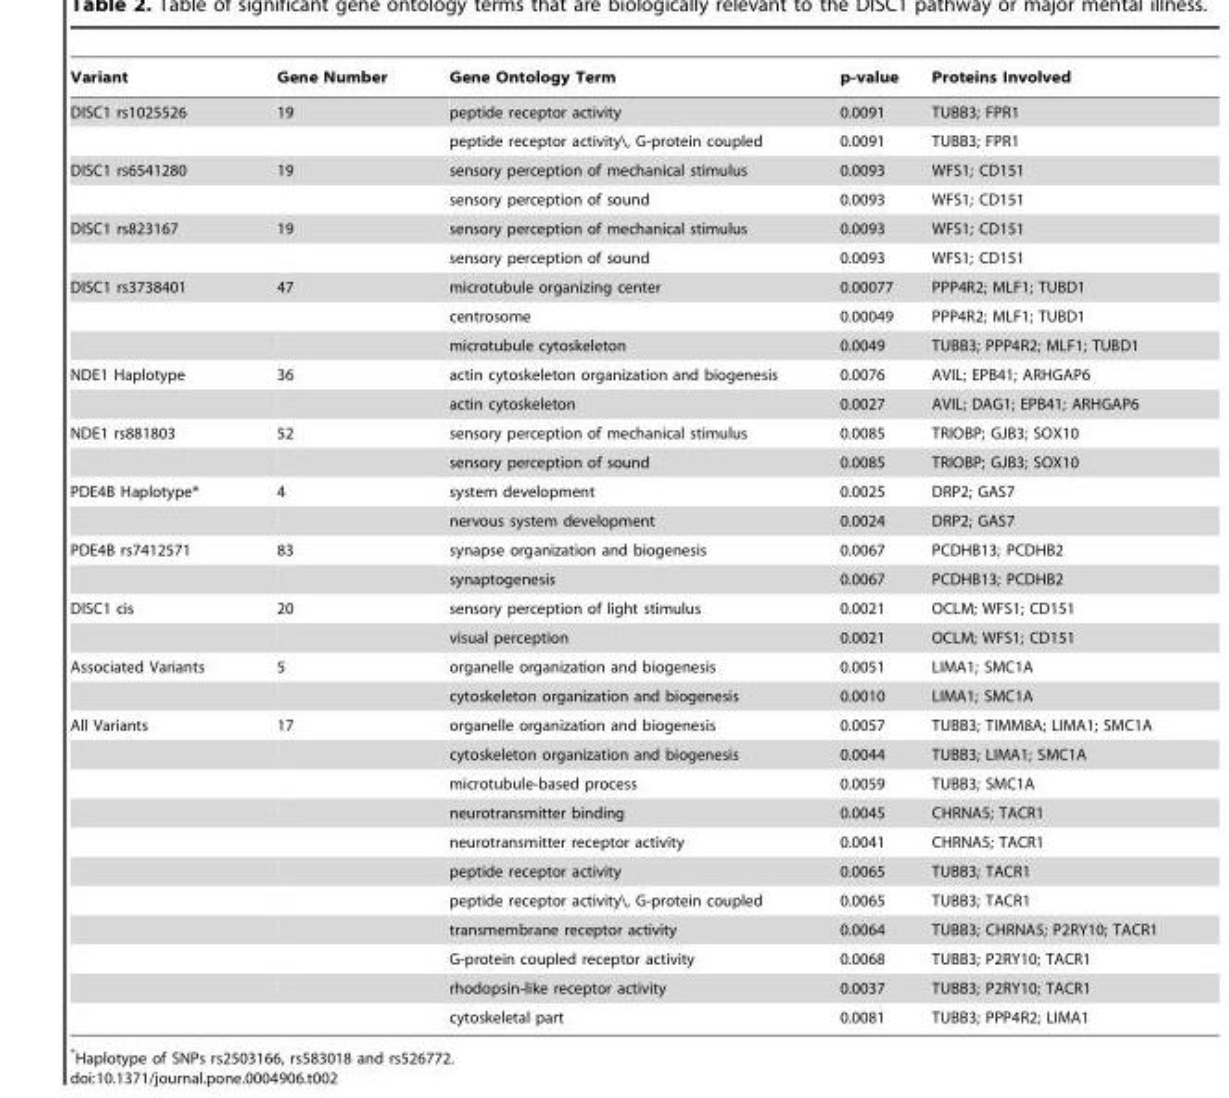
<table><thead><tr><td>Variant</td><td>Gene Number</td><td>Gene Ontology Term</td><td>p-value</td><td>Proteins Involved</td></tr></thead><tbody><tr><td rowspan="2">DISC1 rs1025526</td><td>19</td><td>peptide receptor activity</td><td>0.0091</td><td>TUBB3; FPR1</td></tr><tr><td></td><td>peptide receptor activity\, G-protein coupled</td><td>0.0091</td><td>TUBB3; FPR1</td></tr><tr><td rowspan="2">DISC1 rs6541280</td><td>19</td><td>sensory perception of mechanical stimulus</td><td>0.0093</td><td>WFS1; CD151</td></tr><tr><td></td><td>sensory perception of sound</td><td>0.0093</td><td>WFS1; CD151</td></tr><tr><td rowspan="2">DISC1 rs823167</td><td>19</td><td>sensory perception of mechanical stimulus</td><td>0.0093</td><td>WFS1; CD151</td></tr><tr><td></td><td>sensory perception of sound</td><td>0.0093</td><td>WFS1; CD151</td></tr><tr><td rowspan="3">DISC1 rs3738401</td><td>47</td><td>microtubule organizing center</td><td>0.00077</td><td>PPP4R2; MLF1; TUBD1</td></tr><tr><td></td><td>centrosome</td><td>0.00049</td><td>PPP4R2; MLF1; TUBD1</td></tr><tr><td></td><td>microtubule cytoskeleton</td><td>0.0049</td><td>TUBB3; PPP4R2; MLF1; TUBD1</td></tr><tr><td rowspan="2">NDE1 Haplotype</td><td>36</td><td>actin cytoskeleton organization and biogenesis</td><td>0.0076</td><td>AVIL; EPB41; ARHGAP6</td></tr><tr><td></td><td>actin cytoskeleton</td><td>0.0027</td><td>AVIL; DAG1; EPB41; ARHGAP6</td></tr><tr><td rowspan="2">NDE1 rs881803</td><td>52</td><td>sensory perception of mechanical stimulus</td><td>0.0085</td><td>TRIOBP; GJB3; SOX10</td></tr><tr><td></td><td>sensory perception of sound</td><td>0.0085</td><td>TRIOBP; GJB3; SOX10</td></tr><tr><td rowspan="2">PDE4B Haplotype*</td><td>4</td><td>system development</td><td>0.0025</td><td>DRP2; GAS7</td></tr><tr><td></td><td>nervous system development</td><td>0.0024</td><td>DRP2; GAS7</td></tr><tr><td rowspan="2">PDE4B rs7412571</td><td>83</td><td>synapse organization and biogenesis</td><td>0.0067</td><td>PCDHB13; PCDHB2</td></tr><tr><td></td><td>synaptogenesis</td><td>0.0067</td><td>PCDHB13; PCDHB2</td></tr><tr><td rowspan="2">DISC1 cis</td><td>20</td><td>sensory perception of light stimulus</td><td>0.0021</td><td>OCLM; WFS1; CD151</td></tr><tr><td></td><td>visual perception</td><td>0.0021</td><td>OCLM; WFS1; CD151</td></tr><tr><td rowspan="2">Associated Variants</td><td>5</td><td>organelle organization and biogenesis</td><td>0.0051</td><td>LIMA1; SMC1A</td></tr><tr><td></td><td>cytoskeleton organization and biogenesis</td><td>0.0010</td><td>LIMA1; SMC1A</td></tr><tr><td rowspan="11">All Variants</td><td>17</td><td>organelle organization and biogenesis</td><td>0.0057</td><td>TUBB3; TIMM8A; LIMA1; SMC1A</td></tr><tr><td></td><td>cytoskeleton organization and biogenesis</td><td>0.0044</td><td>TUBB3; LIMA1; SMC1A</td></tr><tr><td></td><td>microtubule-based process</td><td>0.0059</td><td>TUBB3; SMC1A</td></tr><tr><td></td><td>neurotransmitter binding</td><td>0.0045</td><td>CHRNA5; TACR1</td></tr><tr><td></td><td>neurotransmitter receptor activity</td><td>0.0041</td><td>CHRNA5; TACR1</td></tr><tr><td></td><td>peptide receptor activity</td><td>0.0065</td><td>TUBB3; TACR1</td></tr><tr><td></td><td>peptide receptor activity\, G-protein coupled</td><td>0.0065</td><td>TUBB3; TACR1</td></tr><tr><td></td><td>transmembrane receptor activity</td><td>0.0064</td><td>TUBB3; CHRNA5; P2RY10; TACR1</td></tr><tr><td></td><td>G-protein coupled receptor activity</td><td>0.0068</td><td>TUBB3; P2RY10; TACR1</td></tr><tr><td></td><td>rhodopsin-like receptor activity</td><td>0.0037</td><td>TUBB3; P2RY10; TACR1</td></tr><tr><td></td><td>cytoskeletal part</td><td>0.0081</td><td>TUBB3; PPP4R2; LIMA1</td></tr></tbody></table>